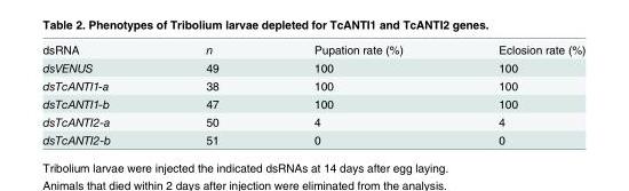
<table><tbody><tr><td>dsRNA</td><td>n</td><td>Pupation rate (%)</td><td>Eclosion rate (%)</td></tr><tr><td>dsVENUS</td><td>49</td><td>100</td><td>100</td></tr><tr><td>dsTcANTI1-a</td><td>38</td><td>100</td><td>100</td></tr><tr><td>dsTcANTI1-b</td><td>47</td><td>100</td><td>100</td></tr><tr><td>dsTcANTI2-a</td><td>50</td><td>4</td><td>4</td></tr><tr><td>dsTcANTI2-b</td><td>51</td><td>0</td><td>0</td></tr></tbody></table>